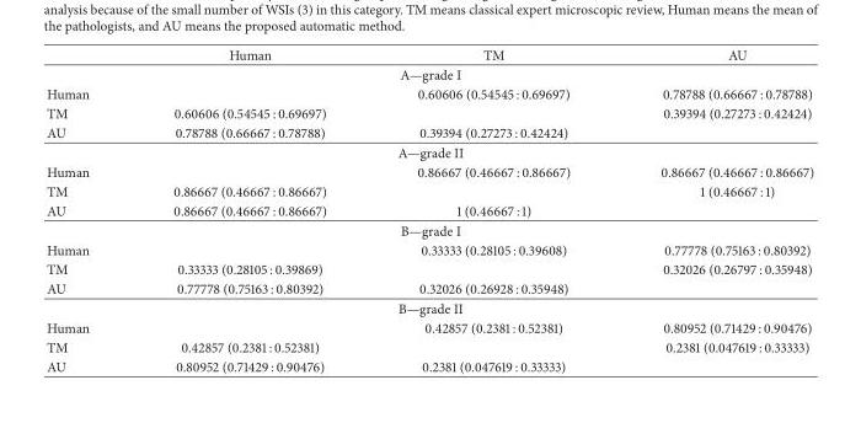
<table><thead><tr><td></td><td>Human</td><td>TM</td><td>AU</td></tr></thead><tbody><tr><td colspan="4">A—grade I</td></tr><tr><td>Human</td><td></td><td>0.60606 (0.54545 : 0.69697)</td><td>0.78788 (0.66667 : 0.78788)</td></tr><tr><td>TM</td><td>0.60606 (0.54545 : 0.69697)</td><td></td><td>0.39394 (0.27273 : 0.42424)</td></tr><tr><td>AU</td><td>0.78788 (0.66667 : 0.78788)</td><td>0.39394 (0.27273 : 0.42424)</td><td></td></tr><tr><td colspan="4">A—grade II</td></tr><tr><td>Human</td><td></td><td>0.86667 (0.46667 : 0.86667)</td><td>0.86667 (0.46667 : 0.86667)</td></tr><tr><td>TM</td><td>0.86667 (0.46667 : 0.86667)</td><td></td><td>1 (0.46667 : 1)</td></tr><tr><td>AU</td><td>0.86667 (0.46667 : 0.86667)</td><td>1 (0.46667 : 1)</td><td></td></tr><tr><td colspan="4">B—grade I</td></tr><tr><td>Human</td><td></td><td>0.33333 (0.28105 : 0.39608)</td><td>0.77778 (0.75163 : 0.80392)</td></tr><tr><td>TM</td><td>0.33333 (0.28105 : 0.39869)</td><td></td><td>0.32026 (0.26797 : 0.35948)</td></tr><tr><td>AU</td><td>0.77778 (0.75163 : 0.80392)</td><td>0.32026 (0.26928 : 0.35948)</td><td></td></tr><tr><td colspan="4">B—grade II</td></tr><tr><td>Human</td><td></td><td>0.42857 (0.2381 : 0.52381)</td><td>0.80952 (0.71429 : 0.90476)</td></tr><tr><td>TM</td><td>0.42857 (0.2381 : 0.52381)</td><td></td><td>0.2381 (0.047619 : 0.33333)</td></tr><tr><td>AU</td><td>0.80952 (0.71429 : 0.90476)</td><td>0.2381 (0.047619 : 0.33333)</td><td></td></tr></tbody></table>